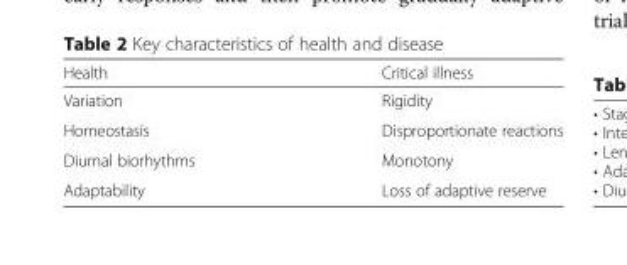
<table><thead><tr><td>Health</td><td>Critical illness</td></tr></thead><tbody><tr><td>Variation</td><td>Rigidity</td></tr><tr><td>Homeostasis</td><td>Disproportionate reactions</td></tr><tr><td>Diurnal biorhythms</td><td>Monotony</td></tr><tr><td>Adaptability</td><td>Loss of adaptive reserve</td></tr></tbody></table>